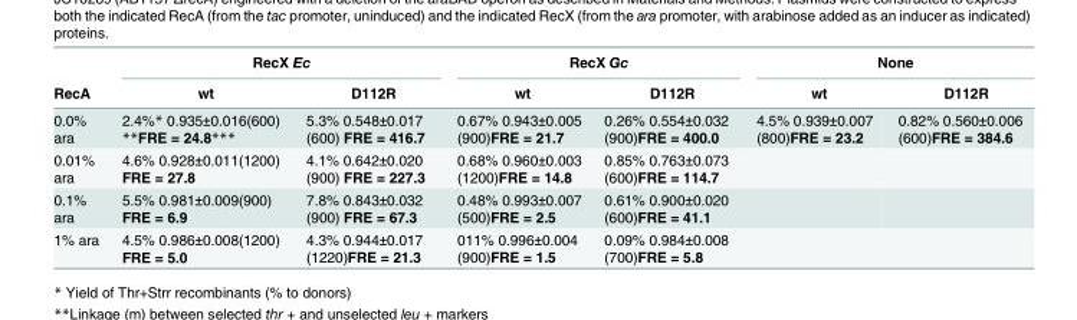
<table><thead><tr><td rowspan="2">RecA</td><td colspan="2">RecX Ec</td><td colspan="2">RecX Gc</td><td colspan="2">None</td></tr><tr><td>wt</td><td>D112R</td><td>wt</td><td>D112R</td><td>wt</td><td>D112R</td></tr></thead><tbody><tr><td>0.0% ara</td><td>2.4%* 0.935±0.016(600) **FRE = 24.8***</td><td>5.3% 0.548±0.017 (600) FRE = 416.7</td><td>0.67% 0.943±0.005 (900)FRE = 21.7</td><td>0.26% 0.554±0.032 (900)FRE = 400.0</td><td>4.5% 0.939±0.007 (800)FRE = 23.2</td><td>0.82% 0.560±0.006 (600)FRE = 384.6</td></tr><tr><td>0.01% ara</td><td>4.6% 0.928±0.011(1200) FRE = 27.8</td><td>4.1% 0.642±0.020 (900) FRE = 227.3</td><td>0.68% 0.960±0.003 (1200)FRE = 14.8</td><td>0.85% 0.763±0.073 (600)FRE = 114.7</td><td></td><td></td></tr><tr><td>0.1% ara</td><td>5.5% 0.981±0.009(900) FRE = 6.9</td><td>7.8% 0.843±0.032 (900) FRE = 67.3</td><td>0.48% 0.993±0.007 (500)FRE = 2.5</td><td>0.61% 0.900±0.020 (600)FRE = 41.1</td><td></td><td></td></tr><tr><td>1% ara</td><td>4.5% 0.986±0.008(1200) FRE = 5.0</td><td>4.3% 0.944±0.017 (1220)FRE = 21.3</td><td>011% 0.996±0.004 (900)FRE = 1.5</td><td>0.09% 0.984±0.008 (700)FRE = 5.8</td><td></td><td></td></tr></tbody></table>